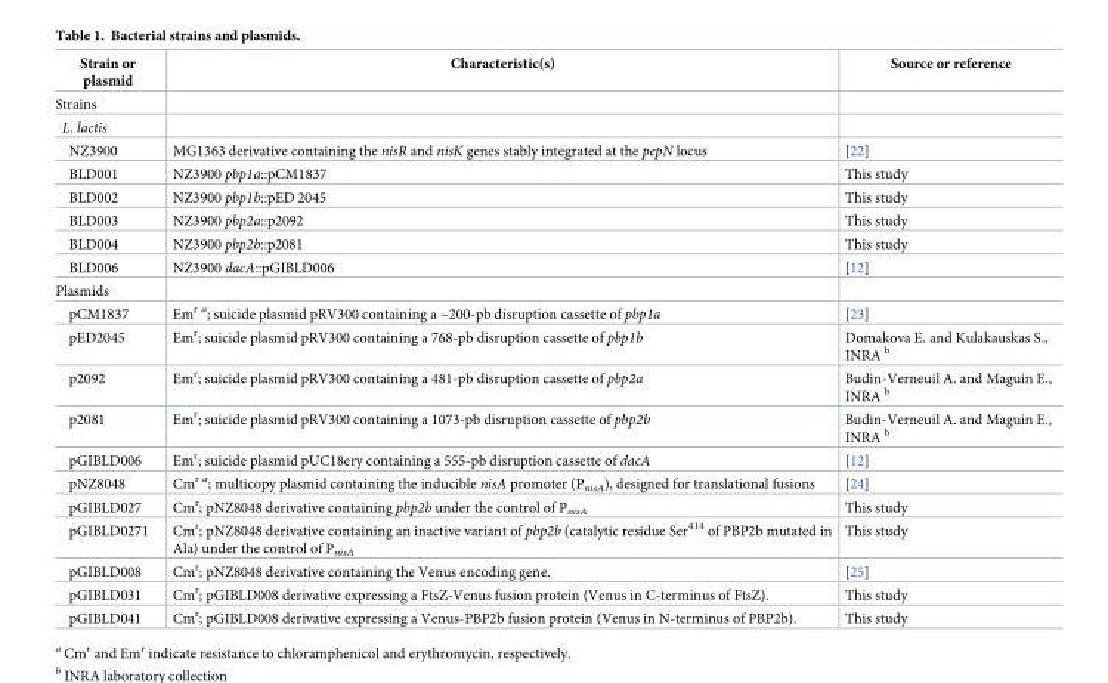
<table><thead><tr><td>Strain or plasmid</td><td>Characteristic(s)</td><td>Source or reference</td></tr></thead><tbody><tr><td colspan="3">Strains</td></tr><tr><td colspan="3">L. lactis</td></tr><tr><td>NZ3900</td><td>MG1363 derivative containing the nisR and nisK genes stably integrated at the pepN locus</td><td>[22]</td></tr><tr><td>BLD001</td><td>NZ3900 pbp1a::pCM1837</td><td>This study</td></tr><tr><td>BLD002</td><td>NZ3900 pbp1b::pED 2045</td><td>This study</td></tr><tr><td>BLD003</td><td>NZ3900 pbp2a::p2092</td><td>This study</td></tr><tr><td>BLD004</td><td>NZ3900 pbp2b::p2081</td><td>This study</td></tr><tr><td>BLD006</td><td>NZ3900 dacA::pGIBLD006</td><td>[12]</td></tr><tr><td colspan="3">Plasmids</td></tr><tr><td>pCM1837</td><td>Em<sup>r a</sup>; suicide plasmid pRV300 containing a ~200-pb disruption cassette of pbp1a</td><td>[23]</td></tr><tr><td>pED2045</td><td>Em<sup>r</sup>; suicide plasmid pRV300 containing a 768-pb disruption cassette of pbp1b</td><td>Domakova E. and Kulakauskas S., INRA <sup>b</sup></td></tr><tr><td>p2092</td><td>Em<sup>r</sup>; suicide plasmid pRV300 containing a 481-pb disruption cassette of pbp2a</td><td>Budin-Verneuil A. and Maguin E., INRA <sup>b</sup></td></tr><tr><td>p2081</td><td>Em<sup>r</sup>; suicide plasmid pRV300 containing a 1073-pb disruption cassette of pbp2b</td><td>Budin-Verneuil A. and Maguin E., INRA <sup>b</sup></td></tr><tr><td>pGIBLD006</td><td>Em<sup>r</sup>; suicide plasmid pUC18ery containing a 555-pb disruption cassette of dacA</td><td>[12]</td></tr><tr><td>pNZ8048</td><td>Cm<sup>r a</sup>; multicopy plasmid containing the inducible nisA promoter (P<sub>nisA</sub>), designed for translational fusions</td><td>[24]</td></tr><tr><td>pGIBLD027</td><td>Cm<sup>r</sup>; pNZ8048 derivative containing pbp2b under the control of P<sub>nisA</sub></td><td>This study</td></tr><tr><td>pGIBLD0271</td><td>Cm<sup>r</sup>; pNZ8048 derivative containing an inactive variant of pbp2b (catalytic residue Ser<sup>414</sup> of PBP2b mutated in Ala) under the control of P<sub>nisA</sub></td><td>This study</td></tr><tr><td>pGIBLD008</td><td>Cm<sup>r</sup>; pNZ8048 derivative containing the Venus encoding gene.</td><td>[25]</td></tr><tr><td>pGIBLD031</td><td>Cm<sup>r</sup>; pGIBLD008 derivative expressing a FtsZ-Venus fusion protein (Venus in C-terminus of FtsZ).</td><td>This study</td></tr><tr><td>pGIBLD041</td><td>Cm<sup>r</sup>; pGIBLD008 derivative expressing a Venus-PBP2b fusion protein (Venus in N-terminus of PBP2b).</td><td>This study</td></tr></tbody></table>